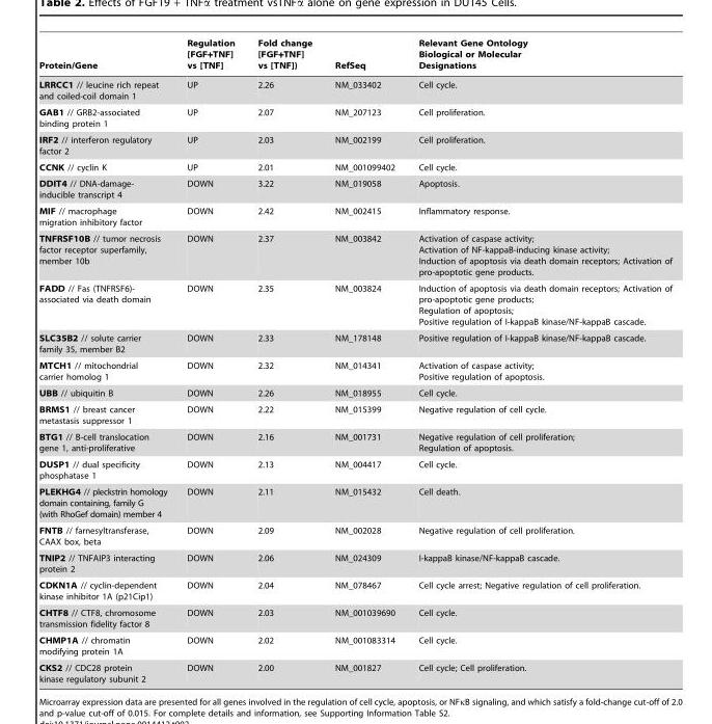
<table><thead><tr><td>Protein/Gene</td><td>Regulation [FGF+TNF] vs [TNF]</td><td>Fold change [FGF+TNF] vs [TNF])</td><td>RefSeq</td><td>Relevant Gene Ontology Biological or Molecular Designations</td></tr></thead><tbody><tr><td>LRRCC1 // leucine rich repeat and coiled-coil domain 1</td><td>UP</td><td>2.26</td><td>NM_033402</td><td>Cell cycle.</td></tr><tr><td>GAB1 // GRB2-associated binding protein 1</td><td>UP</td><td>2.07</td><td>NM_207123</td><td>Cell proliferation.</td></tr><tr><td>IRF2 // interferon regulatory factor 2</td><td>UP</td><td>2.03</td><td>NM_002199</td><td>Cell proliferation.</td></tr><tr><td>CCNK // cyclin K</td><td>UP</td><td>2.01</td><td>NM_001099402</td><td>Cell cycle.</td></tr><tr><td>DDIT4 // DNA-damage- inducible transcript 4</td><td>DOWN</td><td>3.22</td><td>NM_019058</td><td>Apoptosis.</td></tr><tr><td>MIF // macrophage migration inhibitory factor</td><td>DOWN</td><td>2.42</td><td>NM_002415</td><td>Inflammatory response.</td></tr><tr><td>TNFRSF10B // tumor necrosis factor receptor superfamily, member 10b</td><td>DOWN</td><td>2.37</td><td>NM_003842</td><td>Activation of caspase activity; Activation of NF-kappaB-inducing kinase activity; Induction of apoptosis via death domain receptors; Activation of pro-apoptotic gene products.</td></tr><tr><td>FADD // Fas (TNFRSF6)- associated via death domain</td><td>DOWN</td><td>2.35</td><td>NM_003824</td><td>Induction of apoptosis via death domain receptors; Activation of pro-apoptotic gene products; Regulation of apoptosis; Positive regulation of I-kappaB kinase/NF-kappaB cascade.</td></tr><tr><td>SLC35B2 // solute carrier family 35, member B2</td><td>DOWN</td><td>2.33</td><td>NM_178148</td><td>Positive regulation of I-kappaB kinase/NF-kappaB cascade.</td></tr><tr><td>MTCH1 // mitochondrial carrier homolog 1</td><td>DOWN</td><td>2.32</td><td>NM_014341</td><td>Activation of caspase activity; Positive regulation of apoptosis.</td></tr><tr><td>UBB // ubiquitin B</td><td>DOWN</td><td>2.26</td><td>NM_018955</td><td>Cell cycle.</td></tr><tr><td>BRMS1 // breast cancer metastasis suppressor 1</td><td>DOWN</td><td>2.22</td><td>NM_015399</td><td>Negative regulation of cell cycle.</td></tr><tr><td>BTG1 // B-cell translocation gene 1, anti-proliferative</td><td>DOWN</td><td>2.16</td><td>NM_001731</td><td>Negative regulation of cell proliferation; Regulation of apoptosis.</td></tr><tr><td>DUSP1 // dual specificity phosphatase 1</td><td>DOWN</td><td>2.13</td><td>NM_004417</td><td>Cell cycle.</td></tr><tr><td>PLEKHG4 // pleckstrin homology domain containing, family G (with RhoGef domain) member 4</td><td>DOWN</td><td>2.11</td><td>NM_015432</td><td>Cell death.</td></tr><tr><td>FNTB // farnesyltransferase, CAAX box, beta</td><td>DOWN</td><td>2.09</td><td>NM_002028</td><td>Negative regulation of cell proliferation.</td></tr><tr><td>TNIP2 // TNFAIP3 interacting protein 2</td><td>DOWN</td><td>2.06</td><td>NM_024309</td><td>I-kappaB kinase/NF-kappaB cascade.</td></tr><tr><td>CDKN1A // cyclin-dependent kinase inhibitor 1A (p21Cip1)</td><td>DOWN</td><td>2.04</td><td>NM_078467</td><td>Cell cycle arrest; Negative regulation of cell proliferation.</td></tr><tr><td>CHTF8 // CTF8, chromosome transmission fidelity factor 8</td><td>DOWN</td><td>2.03</td><td>NM_001039690</td><td>Cell cycle.</td></tr><tr><td>CHMP1A // chromatin modifying protein 1A</td><td>DOWN</td><td>2.02</td><td>NM_001083314</td><td>Cell cycle.</td></tr><tr><td>CKS2 // CDC28 protein kinase regulatory subunit 2</td><td>DOWN</td><td>2.00</td><td>NM_001827</td><td>Cell cycle; Cell proliferation.</td></tr></tbody></table>